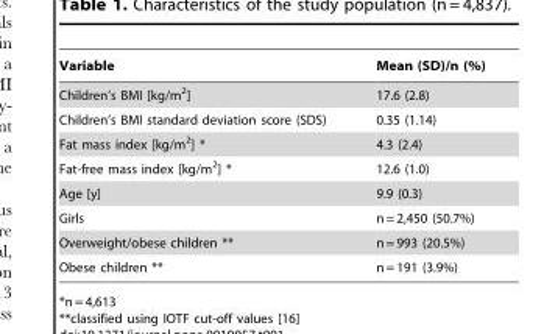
<table><thead><tr><td>Variable</td><td>Mean (SD)/n (%)</td></tr></thead><tbody><tr><td>Children’s BMI [kg/m<sup>2</sup>]</td><td>17.6 (2.8)</td></tr><tr><td>Children’s BMI standard deviation score (SDS)</td><td>0.35 (1.14)</td></tr><tr><td>Fat mass index [kg/m<sup>2</sup>] *</td><td>4.3 (2.4)</td></tr><tr><td>Fat-free mass index [kg/m<sup>2</sup>] *</td><td>12.6 (1.0)</td></tr><tr><td>Age [y]</td><td>9.9 (0.3)</td></tr><tr><td>Girls</td><td>n = 2,450 (50.7%)</td></tr><tr><td>Overweight/obese children **</td><td>n = 993 (20.5%)</td></tr><tr><td>Obese children **</td><td>n = 191 (3.9%)</td></tr></tbody></table>